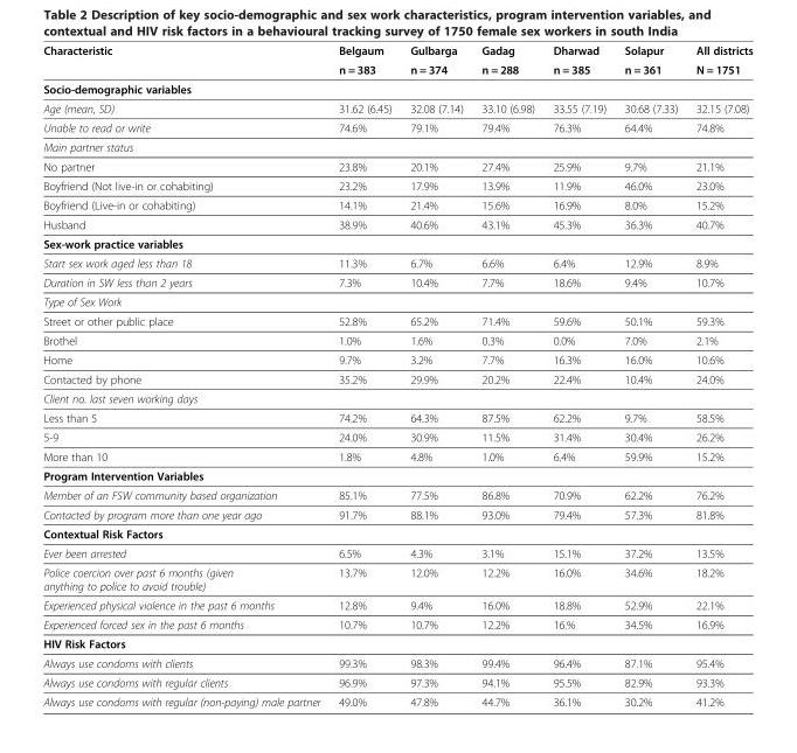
<table><thead><tr><td rowspan="2">Characteristic</td><td rowspan="2">Belgaum n = 383</td><td rowspan="2">Gulbarga n = 374</td><td rowspan="2">Gadag n = 288</td><td rowspan="2">Dharwad n = 385</td><td rowspan="2">Solapur n = 361</td><td rowspan="2">All districts N = 1751</td></tr><tr></tr></thead><tbody><tr><td colspan="7">Socio-demographic variables</td></tr><tr><td>Age (mean, SD)</td><td>31.62 (6.45)</td><td>32.08 (7.14)</td><td>33.10 (6.98)</td><td>33.55 (7.19)</td><td>30.68 (7.33)</td><td>32.15 (7.08)</td></tr><tr><td>Unable to read or write</td><td>74.6%</td><td>79.1%</td><td>79.4%</td><td>76.3%</td><td>64.4%</td><td>74.8%</td></tr><tr><td colspan="7">Main partner status</td></tr><tr><td>No partner</td><td>23.8%</td><td>20.1%</td><td>27.4%</td><td>25.9%</td><td>9.7%</td><td>21.1%</td></tr><tr><td>Boyfriend (Not live-in or cohabiting)</td><td>23.2%</td><td>17.9%</td><td>13.9%</td><td>11.9%</td><td>46.0%</td><td>23.0%</td></tr><tr><td>Boyfriend (Live-in or cohabiting)</td><td>14.1%</td><td>21.4%</td><td>15.6%</td><td>16.9%</td><td>8.0%</td><td>15.2%</td></tr><tr><td>Husband</td><td>38.9%</td><td>40.6%</td><td>43.1%</td><td>45.3%</td><td>36.3%</td><td>40.7%</td></tr><tr><td colspan="7">Sex-work practice variables</td></tr><tr><td>Start sex work aged less than 18</td><td>11.3%</td><td>6.7%</td><td>6.6%</td><td>6.4%</td><td>12.9%</td><td>8.9%</td></tr><tr><td>Duration in SW less than 2 years</td><td>7.3%</td><td>10.4%</td><td>7.7%</td><td>18.6%</td><td>9.4%</td><td>10.7%</td></tr><tr><td colspan="7">Type of Sex Work</td></tr><tr><td>Street or other public place</td><td>52.8%</td><td>65.2%</td><td>71.4%</td><td>59.6%</td><td>50.1%</td><td>59.3%</td></tr><tr><td>Brothel</td><td>1.0%</td><td>1.6%</td><td>0.3%</td><td>0.0%</td><td>7.0%</td><td>2.1%</td></tr><tr><td>Home</td><td>9.7%</td><td>3.2%</td><td>7.7%</td><td>16.3%</td><td>16.0%</td><td>10.6%</td></tr><tr><td>Contacted by phone</td><td>35.2%</td><td>29.9%</td><td>20.2%</td><td>22.4%</td><td>10.4%</td><td>24.0%</td></tr><tr><td colspan="7">Client no. last seven working days</td></tr><tr><td>Less than 5</td><td>74.2%</td><td>64.3%</td><td>87.5%</td><td>62.2%</td><td>9.7%</td><td>58.5%</td></tr><tr><td>5-9</td><td>24.0%</td><td>30.9%</td><td>11.5%</td><td>31.4%</td><td>30.4%</td><td>26.2%</td></tr><tr><td>More than 10</td><td>1.8%</td><td>4.8%</td><td>1.0%</td><td>6.4%</td><td>59.9%</td><td>15.2%</td></tr><tr><td colspan="7">Program Intervention Variables</td></tr><tr><td>Member of an FSW community based organization</td><td>85.1%</td><td>77.5%</td><td>86.8%</td><td>70.9%</td><td>62.2%</td><td>76.2%</td></tr><tr><td>Contacted by program more than one year ago</td><td>91.7%</td><td>88.1%</td><td>93.0%</td><td>79.4%</td><td>57.3%</td><td>81.8%</td></tr><tr><td colspan="7">Contextual Risk Factors</td></tr><tr><td>Ever been arrested</td><td>6.5%</td><td>4.3%</td><td>3.1%</td><td>15.1%</td><td>37.2%</td><td>13.5%</td></tr><tr><td>Police coercion over past 6 months (given anything to police to avoid trouble)</td><td>13.7%</td><td>12.0%</td><td>12.2%</td><td>16.0%</td><td>34.6%</td><td>18.2%</td></tr><tr><td>Experienced physical violence in the past 6 months</td><td>12.8%</td><td>9.4%</td><td>16.0%</td><td>18.8%</td><td>52.9%</td><td>22.1%</td></tr><tr><td>Experienced forced sex in the past 6 months</td><td>10.7%</td><td>10.7%</td><td>12.2%</td><td>16.%</td><td>34.5%</td><td>16.9%</td></tr><tr><td colspan="7">HIV Risk Factors</td></tr><tr><td>Always use condoms with clients</td><td>99.3%</td><td>98.3%</td><td>99.4%</td><td>96.4%</td><td>87.1%</td><td>95.4%</td></tr><tr><td>Always use condoms with regular clients</td><td>96.9%</td><td>97.3%</td><td>94.1%</td><td>95.5%</td><td>82.9%</td><td>93.3%</td></tr><tr><td>Always use condoms with regular (non-paying) male partner</td><td>49.0%</td><td>47.8%</td><td>44.7%</td><td>36.1%</td><td>30.2%</td><td>41.2%</td></tr></tbody></table>